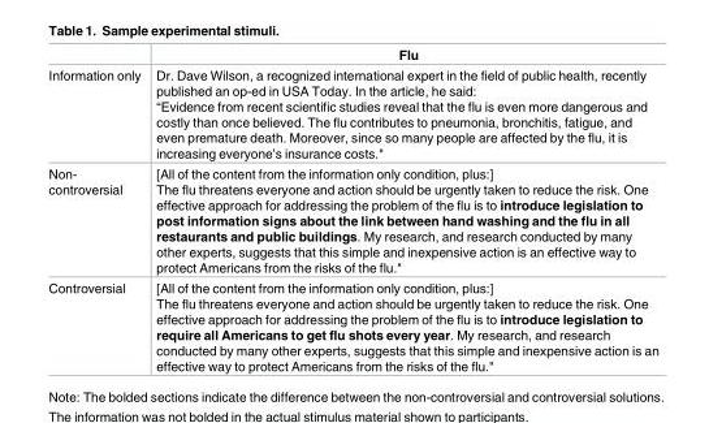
<table><thead><tr><td></td><td>Flu</td></tr></thead><tbody><tr><td>Information only</td><td>Dr. Dave Wilson, a recognized international expert in the field of public health, recently published an op-ed in USA Today. In the article, he said: “Evidence from recent scientific studies reveal that the flu is even more dangerous and costly than once believed. The flu contributes to pneumonia, bronchitis, fatigue, and even premature death. Moreover, since so many people are affected by the flu, it is increasing everyone’s insurance costs.&quot;</td></tr><tr><td>Non- controversial</td><td>[All of the content from the information only condition, plus:] The flu threatens everyone and action should be urgently taken to reduce the risk. One effective approach for addressing the problem of the flu is to introduce legislation to post information signs about the link between hand washing and the flu in all restaurants and public buildings. My research, and research conducted by many other experts, suggests that this simple and inexpensive action is an effective way to protect Americans from the risks of the flu.&quot;</td></tr><tr><td>Controversial</td><td>[All of the content from the information only condition, plus:] The flu threatens everyone and action should be urgently taken to reduce the risk. One effective approach for addressing the problem of the flu is to introduce legislation to require all Americans to get flu shots every year. My research, and research conducted by many other experts, suggests that this simple and inexpensive action is an effective way to protect Americans from the risks of the flu.&quot;</td></tr></tbody></table>